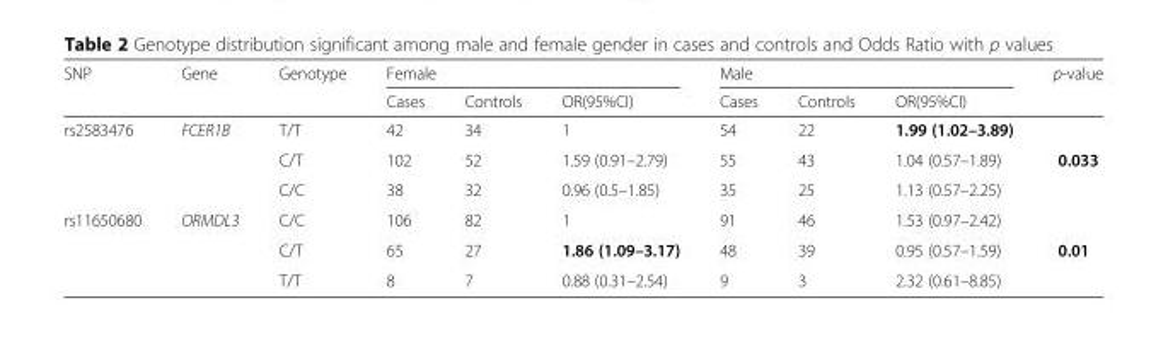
<table><thead><tr><td rowspan="2">SNP</td><td rowspan="2">Gene</td><td rowspan="2">Genotype</td><td colspan="3">Female</td><td colspan="3">Male</td><td rowspan="2">p-value</td></tr><tr><td>Cases</td><td>Controls</td><td>OR(95%CI)</td><td>Cases</td><td>Controls</td><td>OR(95%CI)</td></tr></thead><tbody><tr><td rowspan="3">rs2583476</td><td>FCER1B</td><td>T/T</td><td>42</td><td>34</td><td>1</td><td>54</td><td>22</td><td>1.99 (1.02–3.89)</td><td></td></tr><tr><td></td><td>C/T</td><td>102</td><td>52</td><td>1.59 (0.91–2.79)</td><td>55</td><td>43</td><td>1.04 (0.57–1.89)</td><td>0.033</td></tr><tr><td></td><td>C/C</td><td>38</td><td>32</td><td>0.96 (0.5–1.85)</td><td>35</td><td>25</td><td>1.13 (0.57–2.25)</td><td></td></tr><tr><td rowspan="3">rs11650680</td><td>ORMDL3</td><td>C/C</td><td>106</td><td>82</td><td>1</td><td>91</td><td>46</td><td>1.53 (0.97–2.42)</td><td></td></tr><tr><td></td><td>C/T</td><td>65</td><td>27</td><td>1.86 (1.09–3.17)</td><td>48</td><td>39</td><td>0.95 (0.57–1.59)</td><td>0.01</td></tr><tr><td></td><td>T/T</td><td>8</td><td>7</td><td>0.88 (0.31–2.54)</td><td>9</td><td>3</td><td>2.32 (0.61–8.85)</td><td></td></tr></tbody></table>